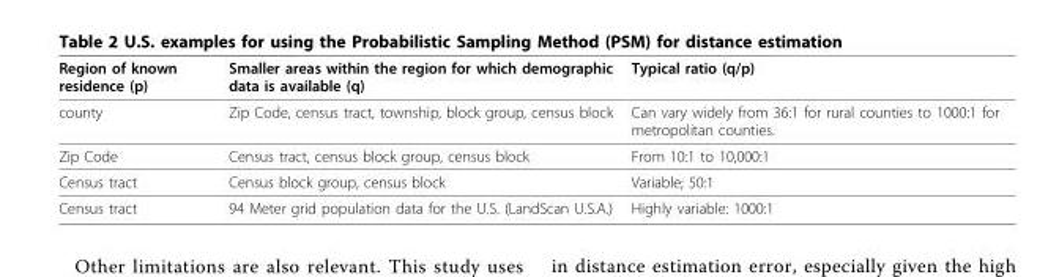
<table><thead><tr><td>Region of known residence (p)</td><td>Smaller areas within the region for which demographic data is available (q)</td><td>Typical ratio (q/p)</td></tr></thead><tbody><tr><td>county</td><td>Zip Code, census tract, township, block group, census block</td><td>Can vary widely from 36:1 for rural counties to 1000:1 for metropolitan counties.</td></tr><tr><td>Zip Code</td><td>Census tract, census block group, census block</td><td>From 10:1 to 10,000:1</td></tr><tr><td>Census tract</td><td>Census block group, census block</td><td>Variable; 50:1</td></tr><tr><td>Census tract</td><td>94 Meter grid population data for the U.S. (LandScan U.S.A.)</td><td>Highly variable: 1000:1</td></tr></tbody></table>